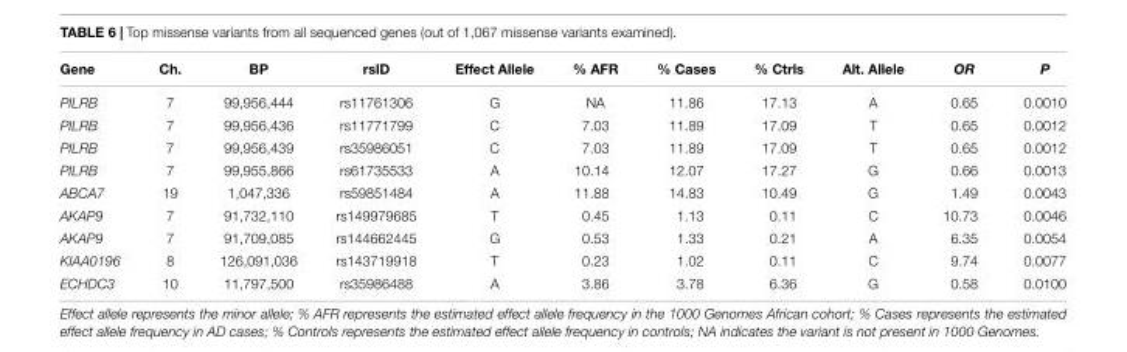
<table><thead><tr><td>Gene</td><td>Ch.</td><td>BP</td><td>rsID</td><td>Effect Allele</td><td>% AFR</td><td>% Cases</td><td>% Ctrls</td><td>Alt. Allele</td><td>OR</td><td>P</td></tr></thead><tbody><tr><td>PILRB</td><td>7</td><td>99,956,444</td><td>rs11761306</td><td>G</td><td>NA</td><td>11.86</td><td>17.13</td><td>A</td><td>0.65</td><td>0.0010</td></tr><tr><td>PILRB</td><td>7</td><td>99,956,436</td><td>rs11771799</td><td>C</td><td>7.03</td><td>11.89</td><td>17.09</td><td>T</td><td>0.65</td><td>0.0012</td></tr><tr><td>PILRB</td><td>7</td><td>99,956,439</td><td>rs35986051</td><td>C</td><td>7.03</td><td>11.89</td><td>17.09</td><td>T</td><td>0.65</td><td>0.0012</td></tr><tr><td>PILRB</td><td>7</td><td>99,955,866</td><td>rs61735533</td><td>A</td><td>10.14</td><td>12.07</td><td>17.27</td><td>G</td><td>0.66</td><td>0.0013</td></tr><tr><td>ABCA7</td><td>19</td><td>1,047,336</td><td>rs59851484</td><td>A</td><td>11.88</td><td>14.83</td><td>10.49</td><td>G</td><td>1.49</td><td>0.0043</td></tr><tr><td>AKAP9</td><td>7</td><td>91,732,110</td><td>rs149979685</td><td>T</td><td>0.45</td><td>1.13</td><td>0.11</td><td>C</td><td>10.73</td><td>0.0046</td></tr><tr><td>AKAP9</td><td>7</td><td>91,709,085</td><td>rs144662445</td><td>G</td><td>0.53</td><td>1.33</td><td>0.21</td><td>A</td><td>6.35</td><td>0.0054</td></tr><tr><td>KIAA0196</td><td>8</td><td>126,091,036</td><td>rs143719918</td><td>T</td><td>0.23</td><td>1.02</td><td>0.11</td><td>C</td><td>9.74</td><td>0.0077</td></tr><tr><td>ECHDC3</td><td>10</td><td>11,797,500</td><td>rs35986488</td><td>A</td><td>3.86</td><td>3.78</td><td>6.36</td><td>G</td><td>0.58</td><td>0.0100</td></tr></tbody></table>